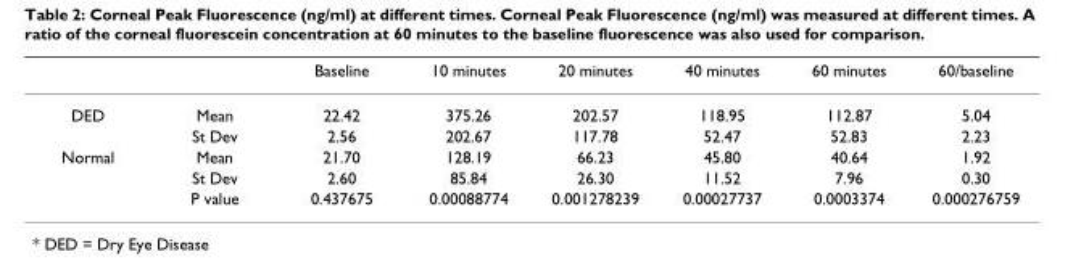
<table><thead><tr><td></td><td></td><td>Baseline</td><td>10 minutes</td><td>20 minutes</td><td>40 minutes</td><td>60 minutes</td><td>60/baseline</td></tr></thead><tbody><tr><td rowspan="2">DED</td><td>Mean</td><td>22.42</td><td>375.26</td><td>202.57</td><td>118.95</td><td>112.87</td><td>5.04</td></tr><tr><td>St Dev</td><td>2.56</td><td>202.67</td><td>117.78</td><td>52.47</td><td>52.83</td><td>2.23</td></tr><tr><td rowspan="3">Normal</td><td>Mean</td><td>21.70</td><td>128.19</td><td>66.23</td><td>45.80</td><td>40.64</td><td>1.92</td></tr><tr><td>St Dev</td><td>2.60</td><td>85.84</td><td>26.30</td><td>11.52</td><td>7.96</td><td>0.30</td></tr><tr><td>P value</td><td>0.437675</td><td>0.00088774</td><td>0.001278239</td><td>0.00027737</td><td>0.0003374</td><td>0.000276759</td></tr></tbody></table>